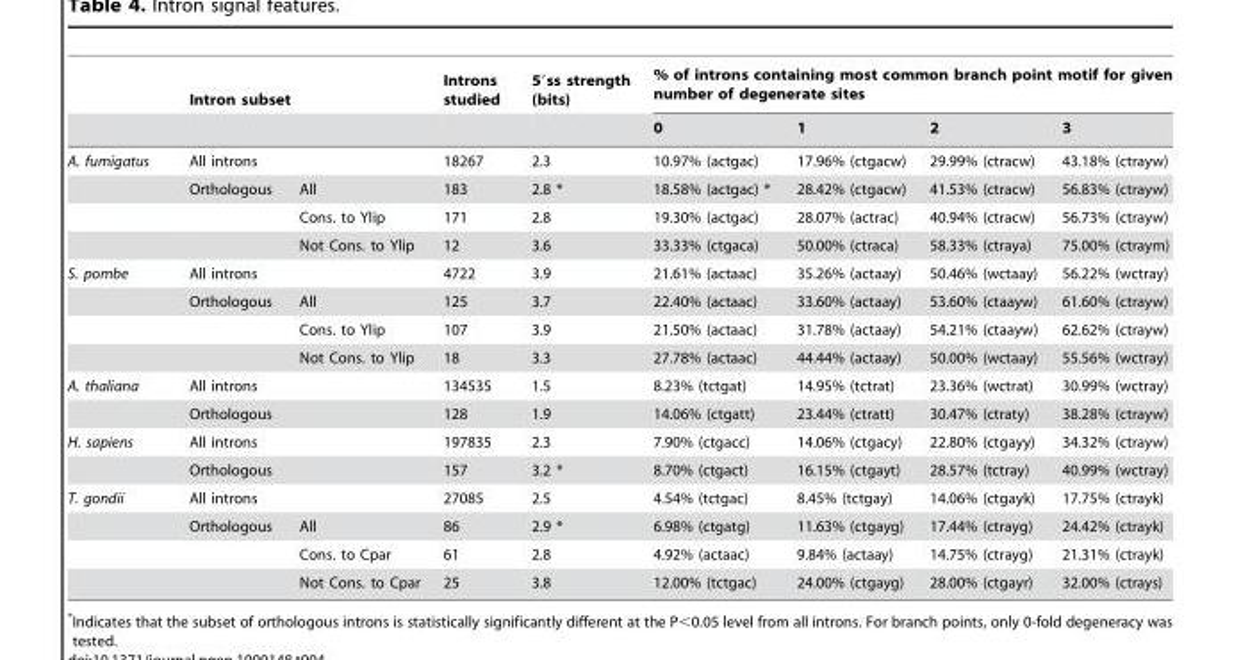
<table><thead><tr><td rowspan="2"></td><td colspan="2">Intron subset</td><td rowspan="2">Introns studied</td><td rowspan="2">5′ss strength (bits)</td><td colspan="4">% of introns containing most common branch point motif for given number of degenerate sites</td></tr><tr><td></td><td></td><td>0</td><td>1</td><td>2</td><td>3</td></tr></thead><tbody><tr><td rowspan="4">A. fumigatus</td><td>All introns</td><td></td><td>18267</td><td>2.3</td><td>10.97% (actgac)</td><td>17.96% (ctgacw)</td><td>29.99% (ctracw)</td><td>43.18% (ctrayw)</td></tr><tr><td>Orthologous</td><td>All</td><td>183</td><td>2.8 *</td><td>18.58% (actgac) *</td><td>28.42% (ctgacw)</td><td>41.53% (ctracw)</td><td>56.83% (ctrayw)</td></tr><tr><td></td><td>Cons. to Ylip</td><td>171</td><td>2.8</td><td>19.30% (actgac)</td><td>28.07% (actrac)</td><td>40.94% (ctracw)</td><td>56.73% (ctrayw)</td></tr><tr><td></td><td>Not Cons. to Ylip</td><td>12</td><td>3.6</td><td>33.33% (ctgaca)</td><td>50.00% (ctraca)</td><td>58.33% (ctraya)</td><td>75.00% (ctraym)</td></tr><tr><td rowspan="4">S. pombe</td><td>All introns</td><td></td><td>4722</td><td>3.9</td><td>21.61% (actaac)</td><td>35.26% (actaay)</td><td>50.46% (wctaay)</td><td>56.22% (wctray)</td></tr><tr><td>Orthologous</td><td>All</td><td>125</td><td>3.7</td><td>22.40% (actaac)</td><td>33.60% (actaay)</td><td>53.60% (ctaayw)</td><td>61.60% (ctrayw)</td></tr><tr><td></td><td>Cons. to Ylip</td><td>107</td><td>3.9</td><td>21.50% (actaac)</td><td>31.78% (actaay)</td><td>54.21% (ctaayw)</td><td>62.62% (ctrayw)</td></tr><tr><td></td><td>Not Cons. to Ylip</td><td>18</td><td>3.3</td><td>27.78% (actaac)</td><td>44.44% (actaay)</td><td>50.00% (wctaay)</td><td>55.56% (wctray)</td></tr><tr><td rowspan="2">A. thaliana</td><td>All introns</td><td></td><td>134535</td><td>1.5</td><td>8.23% (tctgat)</td><td>14.95% (tctrat)</td><td>23.36% (wctrat)</td><td>30.99% (wctray)</td></tr><tr><td>Orthologous</td><td></td><td>128</td><td>1.9</td><td>14.06% (ctgatt)</td><td>23.44% (ctratt)</td><td>30.47% (ctraty)</td><td>38.28% (ctrayw)</td></tr><tr><td rowspan="2">H. sapiens</td><td>All introns</td><td></td><td>197835</td><td>2.3</td><td>7.90% (ctgacc)</td><td>14.06% (ctgacy)</td><td>22.80% (ctgayy)</td><td>34.32% (ctrayw)</td></tr><tr><td>Orthologous</td><td></td><td>157</td><td>3.2 *</td><td>8.70% (ctgact)</td><td>16.15% (ctgayt)</td><td>28.57% (tctray)</td><td>40.99% (wctray)</td></tr><tr><td rowspan="4">T. gondii</td><td>All introns</td><td></td><td>27085</td><td>2.5</td><td>4.54% (tctgac)</td><td>8.45% (tctgay)</td><td>14.06% (ctgayk)</td><td>17.75% (ctrayk)</td></tr><tr><td>Orthologous</td><td>All</td><td>86</td><td>2.9 *</td><td>6.98% (ctgatg)</td><td>11.63% (ctgayg)</td><td>17.44% (ctrayg)</td><td>24.42% (ctrayk)</td></tr><tr><td></td><td>Cons. to Cpar</td><td>61</td><td>2.8</td><td>4.92% (actaac)</td><td>9.84% (actaay)</td><td>14.75% (ctrayg)</td><td>21.31% (ctrayk)</td></tr><tr><td></td><td>Not Cons. to Cpar</td><td>25</td><td>3.8</td><td>12.00% (tctgac)</td><td>24.00% (ctgayg)</td><td>28.00% (ctgayr)</td><td>32.00% (ctrays)</td></tr></tbody></table>